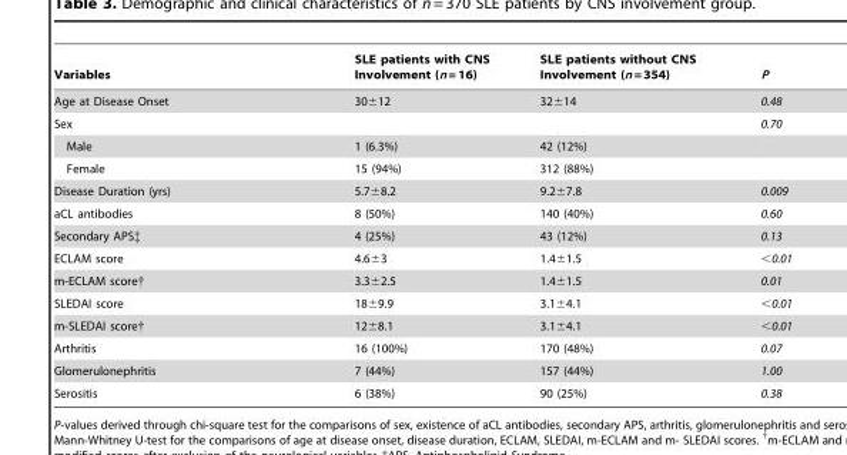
<table><thead><tr><td>Variables</td><td>SLE patients with CNS Involvement (n = 16)</td><td>SLE patients without CNS Involvement (n = 354)</td><td>P</td></tr></thead><tbody><tr><td>Age at Disease Onset</td><td>30±12</td><td>32±14</td><td>0.48</td></tr><tr><td>Sex</td><td></td><td></td><td>0.70</td></tr><tr><td>Male</td><td>1 (6.3%)</td><td>42 (12%)</td><td></td></tr><tr><td>Female</td><td>15 (94%)</td><td>312 (88%)</td><td></td></tr><tr><td>Disease Duration (yrs)</td><td>5.7±8.2</td><td>9.2±7.8</td><td>0.009</td></tr><tr><td>aCL antibodies</td><td>8 (50%)</td><td>140 (40%)</td><td>0.60</td></tr><tr><td>Secondary APS‡</td><td>4 (25%)</td><td>43 (12%)</td><td>0.13</td></tr><tr><td>ECLAM score</td><td>4.6±3</td><td>1.4±1.5</td><td>&lt;0.01</td></tr><tr><td>m-ECLAM score†</td><td>3.3±2.5</td><td>1.4±1.5</td><td>0.01</td></tr><tr><td>SLEDAI score</td><td>18±9.9</td><td>3.1±4.1</td><td>&lt;0.01</td></tr><tr><td>m-SLEDAI score†</td><td>12±8.1</td><td>3.1±4.1</td><td>&lt;0.01</td></tr><tr><td>Arthritis</td><td>16 (100%)</td><td>170 (48%)</td><td>0.07</td></tr><tr><td>Glomerulonephritis</td><td>7 (44%)</td><td>157 (44%)</td><td>1.00</td></tr><tr><td>Serositis</td><td>6 (38%)</td><td>90 (25%)</td><td>0.38</td></tr></tbody></table>